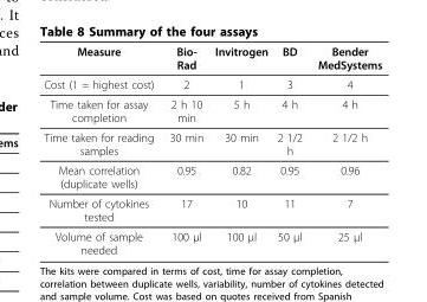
<table><thead><tr><td>Measure</td><td>Bio- Rad</td><td>Invitrogen</td><td>BD</td><td>Bender MedSystems</td></tr></thead><tbody><tr><td>Cost (1 = highest cost)</td><td>2</td><td>1</td><td>3</td><td>4</td></tr><tr><td>Time taken for assay completion</td><td>2 h 10 min</td><td>5 h</td><td>4 h</td><td>4 h</td></tr><tr><td>Time taken for reading samples</td><td>30 min</td><td>30 min</td><td>2 1/2 h</td><td>2 1/2 h</td></tr><tr><td>Mean correlation (duplicate wells)</td><td>0.95</td><td>0.82</td><td>0.95</td><td>0.96</td></tr><tr><td>Number of cytokines tested</td><td>17</td><td>10</td><td>11</td><td>7</td></tr><tr><td>Volume of sample needed</td><td>100 μl</td><td>100 μl</td><td>50 μl</td><td>25 μl</td></tr></tbody></table>